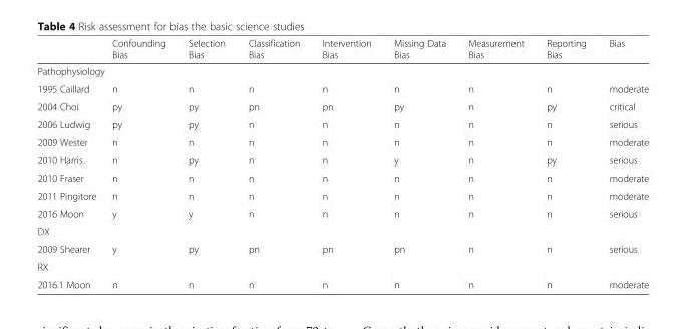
<table><thead><tr><td></td><td>Confounding Bias</td><td>Selection Bias</td><td>Classification Bias</td><td>Intervention Bias</td><td>Missing Data Bias</td><td>Measurement Bias</td><td>Reporting Bias</td><td>Bias</td></tr></thead><tbody><tr><td colspan="9">Pathophysiology</td></tr><tr><td>1995 Caillard</td><td>n</td><td>n</td><td>n</td><td>n</td><td>n</td><td>n</td><td>n</td><td>moderate</td></tr><tr><td>2004 Choi</td><td>py</td><td>py</td><td>pn</td><td>pn</td><td>py</td><td>n</td><td>py</td><td>critical</td></tr><tr><td>2006 Ludwig</td><td>py</td><td>py</td><td>n</td><td>n</td><td>n</td><td>n</td><td>n</td><td>serious</td></tr><tr><td>2009 Wester</td><td>n</td><td>n</td><td>n</td><td>n</td><td>n</td><td>n</td><td>n</td><td>moderate</td></tr><tr><td>2010 Harris</td><td>n</td><td>py</td><td>n</td><td>n</td><td>y</td><td>n</td><td>py</td><td>serious</td></tr><tr><td>2010 Fraser</td><td>n</td><td>n</td><td>n</td><td>n</td><td>n</td><td>n</td><td>n</td><td>moderate</td></tr><tr><td>2011 Pingitore</td><td>n</td><td>n</td><td>n</td><td>n</td><td>n</td><td>n</td><td>n</td><td>moderate</td></tr><tr><td>2016 Moon</td><td>y</td><td>y</td><td>n</td><td>n</td><td>n</td><td>n</td><td>n</td><td>serious</td></tr><tr><td colspan="9">DX</td></tr><tr><td>2009 Shearer</td><td>y</td><td>py</td><td>pn</td><td>pn</td><td>pn</td><td>n</td><td>n</td><td>serious</td></tr><tr><td colspan="9">RX</td></tr><tr><td>2016.1 Moon</td><td>n</td><td>n</td><td>n</td><td>n</td><td>n</td><td>n</td><td>n</td><td>moderate</td></tr></tbody></table>